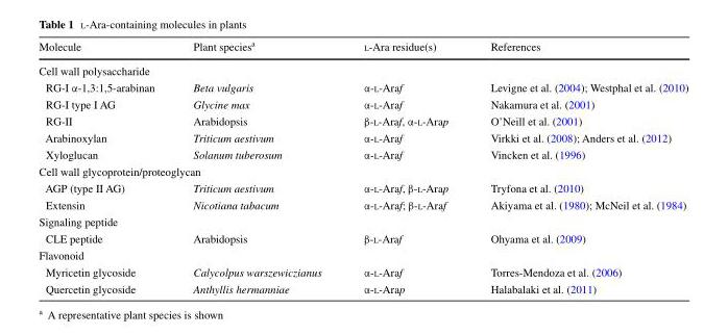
<table><thead><tr><td>Molecule</td><td>Plant species<sup>a</sup></td><td>l-Ara residue(s)</td><td>References</td></tr></thead><tbody><tr><td colspan="4">Cell wall polysaccharide</td></tr><tr><td>RG-I α-1,3:1,5-arabinan</td><td>Beta vulgaris</td><td>α-l-Araf</td><td>Levigne et al. (2004); Westphal et al. (2010)</td></tr><tr><td>RG-I type I AG</td><td>Glycine max</td><td>α-l-Araf</td><td>Nakamura et al. (2001)</td></tr><tr><td>RG-II</td><td>Arabidopsis</td><td>β-l-Araf, α-l-Arap</td><td>O’Neill et al. (2001)</td></tr><tr><td>Arabinoxylan</td><td>Triticum aestivum</td><td>α-l-Araf</td><td>Virkki et al. (2008); Anders et al. (2012)</td></tr><tr><td>Xyloglucan</td><td>Solanum tuberosum</td><td>α-l-Araf</td><td>Vincken et al. (1996)</td></tr><tr><td colspan="4">Cell wall glycoprotein/proteoglycan</td></tr><tr><td>AGP (type II AG)</td><td>Triticum aestivum</td><td>α-l-Araf, β-l-Arap</td><td>Tryfona et al. (2010)</td></tr><tr><td>Extensin</td><td>Nicotiana tabacum</td><td>α-l-Araf; β-l-Araf</td><td>Akiyama et al. (1980); McNeil et al. (1984)</td></tr><tr><td colspan="4">Signaling peptide</td></tr><tr><td>CLE peptide</td><td>Arabidopsis</td><td>β-l-Araf</td><td>Ohyama et al. (2009)</td></tr><tr><td colspan="4">Flavonoid</td></tr><tr><td>Myricetin glycoside</td><td>Calycolpus warszewiczianus</td><td>α-l-Araf</td><td>Torres-Mendoza et al. (2006)</td></tr><tr><td>Quercetin glycoside</td><td>Anthyllis hermanniae</td><td>α-l-Arap</td><td>Halabalaki et al. (2011)</td></tr></tbody></table>